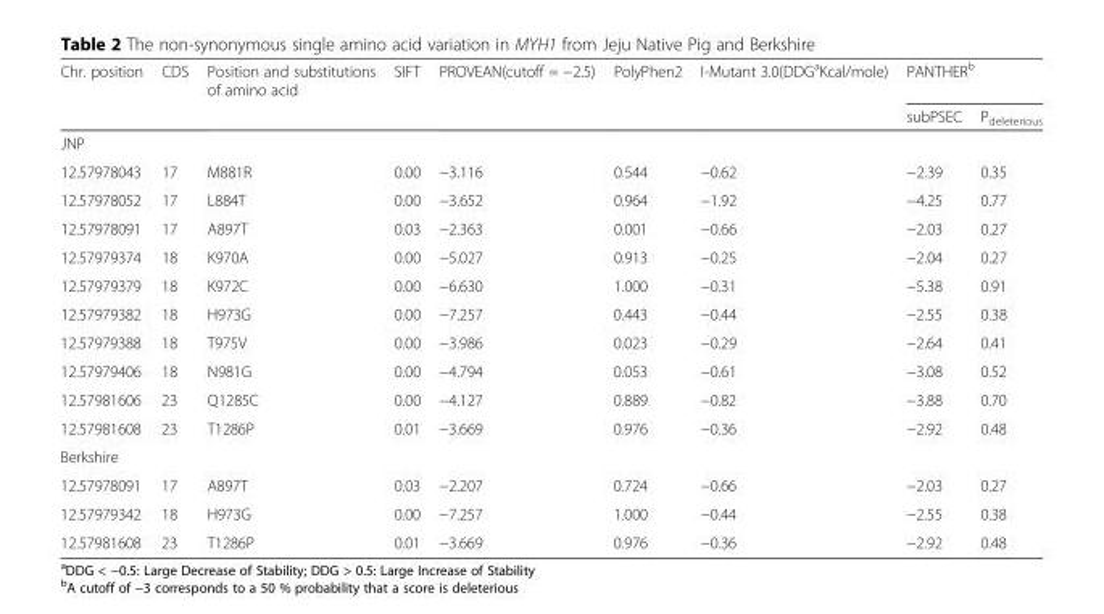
<table><thead><tr><td rowspan="2">Chr. position</td><td rowspan="2">CDS</td><td rowspan="2">Position and substitutions of amino acid</td><td rowspan="2">SIFT</td><td rowspan="2">PROVEAN(cutoff = −2.5)</td><td rowspan="2">PolyPhen2</td><td rowspan="2">I-Mutant 3.0(DDG<sup>a</sup>Kcal/mole)</td><td colspan="2">PANTHER<sup>b</sup></td></tr><tr><td>subPSEC</td><td>P<sub>deleterious</sub></td></tr></thead><tbody><tr><td colspan="9">JNP</td></tr><tr><td>12.57978043</td><td>17</td><td>M881R</td><td>0.00</td><td>−3.116</td><td>0.544</td><td>−0.62</td><td>−2.39</td><td>0.35</td></tr><tr><td>12.57978052</td><td>17</td><td>L884T</td><td>0.00</td><td>−3.652</td><td>0.964</td><td>−1.92</td><td>−4.25</td><td>0.77</td></tr><tr><td>12.57978091</td><td>17</td><td>A897T</td><td>0.03</td><td>−2.363</td><td>0.001</td><td>−0.66</td><td>−2.03</td><td>0.27</td></tr><tr><td>12.57979374</td><td>18</td><td>K970A</td><td>0.00</td><td>−5.027</td><td>0.913</td><td>−0.25</td><td>−2.04</td><td>0.27</td></tr><tr><td>12.57979379</td><td>18</td><td>K972C</td><td>0.00</td><td>−6.630</td><td>1.000</td><td>−0.31</td><td>−5.38</td><td>0.91</td></tr><tr><td>12.57979382</td><td>18</td><td>H973G</td><td>0.00</td><td>−7.257</td><td>0.443</td><td>−0.44</td><td>−2.55</td><td>0.38</td></tr><tr><td>12.57979388</td><td>18</td><td>T975V</td><td>0.00</td><td>−3.986</td><td>0.023</td><td>−0.29</td><td>−2.64</td><td>0.41</td></tr><tr><td>12.57979406</td><td>18</td><td>N981G</td><td>0.00</td><td>−4.794</td><td>0.053</td><td>−0.61</td><td>−3.08</td><td>0.52</td></tr><tr><td>12.57981606</td><td>23</td><td>Q1285C</td><td>0.00</td><td>−4.127</td><td>0.889</td><td>−0.82</td><td>−3.88</td><td>0.70</td></tr><tr><td>12.57981608</td><td>23</td><td>T1286P</td><td>0.01</td><td>−3.669</td><td>0.976</td><td>−0.36</td><td>−2.92</td><td>0.48</td></tr><tr><td colspan="9">Berkshire</td></tr><tr><td>12.57978091</td><td>17</td><td>A897T</td><td>0.03</td><td>−2.207</td><td>0.724</td><td>−0.66</td><td>−2.03</td><td>0.27</td></tr><tr><td>12.57979342</td><td>18</td><td>H973G</td><td>0.00</td><td>−7.257</td><td>1.000</td><td>−0.44</td><td>−2.55</td><td>0.38</td></tr><tr><td>12.57981608</td><td>23</td><td>T1286P</td><td>0.01</td><td>−3.669</td><td>0.976</td><td>−0.36</td><td>−2.92</td><td>0.48</td></tr></tbody></table>